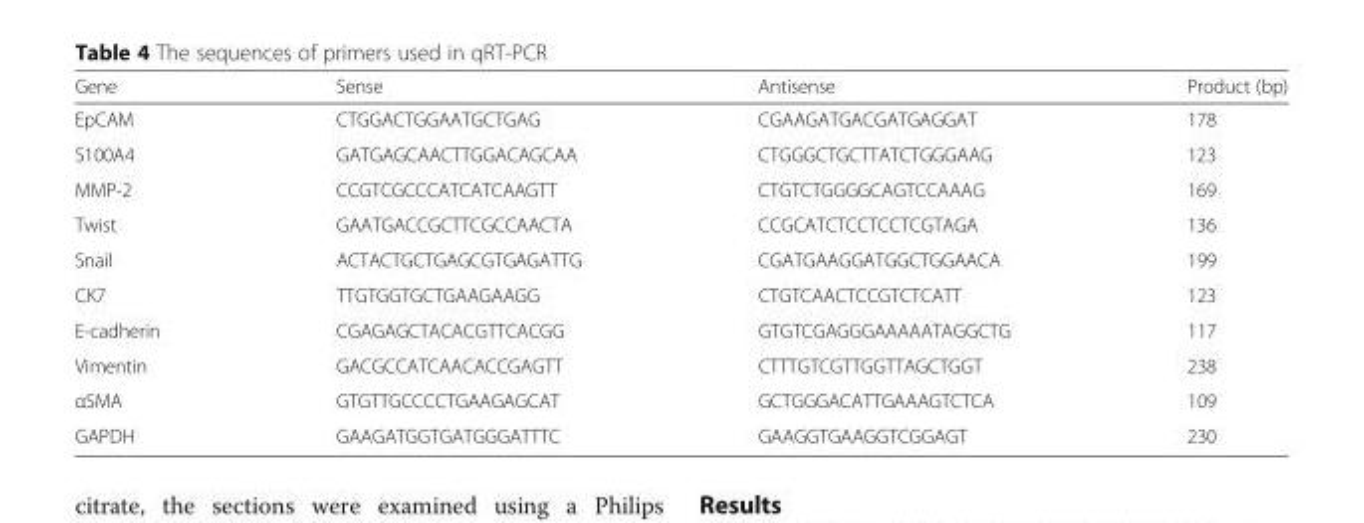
<table><thead><tr><td>Gene</td><td>Sense</td><td>Antisense</td><td>Product (bp)</td></tr></thead><tbody><tr><td>EpCAM</td><td>CTGGACTGGAATGCTGAG</td><td>CGAAGATGACGATGAGGAT</td><td>178</td></tr><tr><td>S100A4</td><td>GATGAGCAACTTGGACAGCAA</td><td>CTGGGCTGCTTATCTGGGAAG</td><td>123</td></tr><tr><td>MMP-2</td><td>CCGTCGCCCATCATCAAGTT</td><td>CTGTCTGGGGCAGTCCAAAG</td><td>169</td></tr><tr><td>Twist</td><td>GAATGACCGCTTCGCCAACTA</td><td>CCGCATCTCCTCCTCGTAGA</td><td>136</td></tr><tr><td>Snail</td><td>ACTACTGCTGAGCGTGAGATTG</td><td>CGATGAAGGATGGCTGGAACA</td><td>199</td></tr><tr><td>CK7</td><td>TTGTGGTGCTGAAGAAGG</td><td>CTGTCAACTCCGTCTCATT</td><td>123</td></tr><tr><td>E-cadherin</td><td>CGAGAGCTACACGTTCACGG</td><td>GTGTCGAGGGAAAAATAGGCTG</td><td>117</td></tr><tr><td>Vimentin</td><td>GACGCCATCAACACCGAGTT</td><td>CTTTGTCGTTGGTTAGCTGGT</td><td>238</td></tr><tr><td>αSMA</td><td>GTGTTGCCCCTGAAGAGCAT</td><td>GCTGGGACATTGAAAGTCTCA</td><td>109</td></tr><tr><td>GAPDH</td><td>GAAGATGGTGATGGGATTTC</td><td>GAAGGTGAAGGTCGGAGT</td><td>230</td></tr></tbody></table>